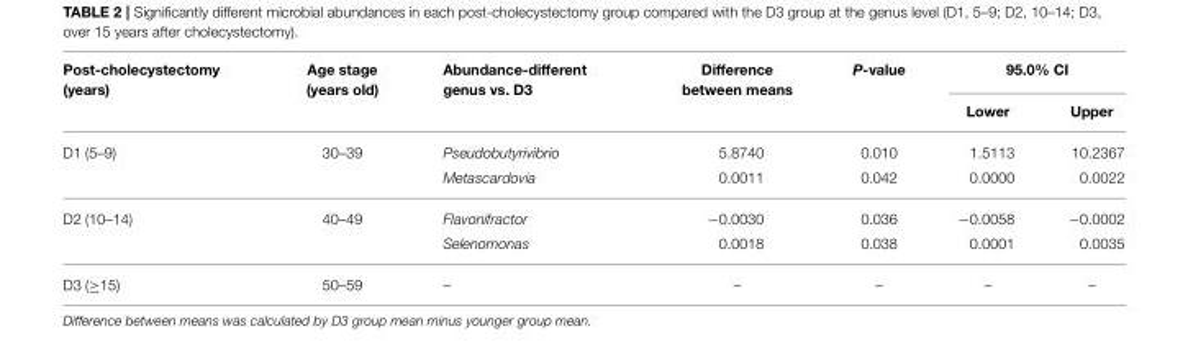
<table><thead><tr><td rowspan="2">Post-cholecystectomy (years)</td><td rowspan="2">Age stage (years old)</td><td rowspan="2">Abundance-different genus vs. D3</td><td rowspan="2">Difference between means</td><td rowspan="2">P-value</td><td colspan="2">95.0% CI</td></tr><tr><td>Lower</td><td>Upper</td></tr></thead><tbody><tr><td rowspan="2">D1 (5–9)</td><td>30–39</td><td>Pseudobutyrivibrio</td><td>5.8740</td><td>0.010</td><td>1.5113</td><td>10.2367</td></tr><tr><td></td><td>Metascardovia</td><td>0.0011</td><td>0.042</td><td>0.0000</td><td>0.0022</td></tr><tr><td rowspan="2">D2 (10–14)</td><td>40–49</td><td>Flavonifractor</td><td>−0.0030</td><td>0.036</td><td>−0.0058</td><td>−0.0002</td></tr><tr><td></td><td>Selenomonas</td><td>0.0018</td><td>0.038</td><td>0.0001</td><td>0.0035</td></tr><tr><td>D3 (≥15)</td><td>50–59</td><td>–</td><td>–</td><td>–</td><td>–</td><td>–</td></tr></tbody></table>